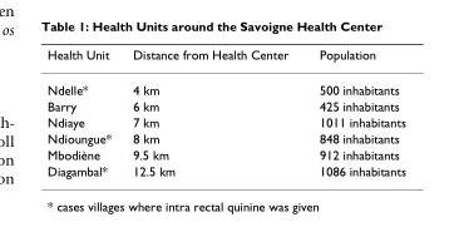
<table><thead><tr><td>Health Unit</td><td>Distance from Health Center</td><td>Population</td></tr></thead><tbody><tr><td>Ndelle*</td><td>4 km</td><td>500 inhabitants</td></tr><tr><td>Barry</td><td>6 km</td><td>425 inhabitants</td></tr><tr><td>Ndiaye</td><td>7 km</td><td>1011 inhabitants</td></tr><tr><td>Ndioungue*</td><td>8 km</td><td>848 inhabitants</td></tr><tr><td>Mbodiène</td><td>9.5 km</td><td>912 inhabitants</td></tr><tr><td>Diagambal*</td><td>12.5 km</td><td>1086 inhabitants</td></tr></tbody></table>